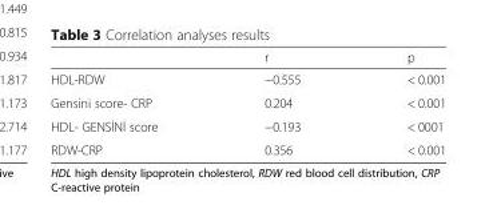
<table><thead><tr><td></td><td>r</td><td>p</td></tr></thead><tbody><tr><td>HDL-RDW</td><td>−0.555</td><td>&lt; 0.001</td></tr><tr><td>Gensini score- CRP</td><td>0.204</td><td>&lt; 0.001</td></tr><tr><td>HDL- GENSİNİ score</td><td>−0.193</td><td>&lt; 0001</td></tr><tr><td>RDW-CRP</td><td>0.356</td><td>&lt; 0.001</td></tr></tbody></table>